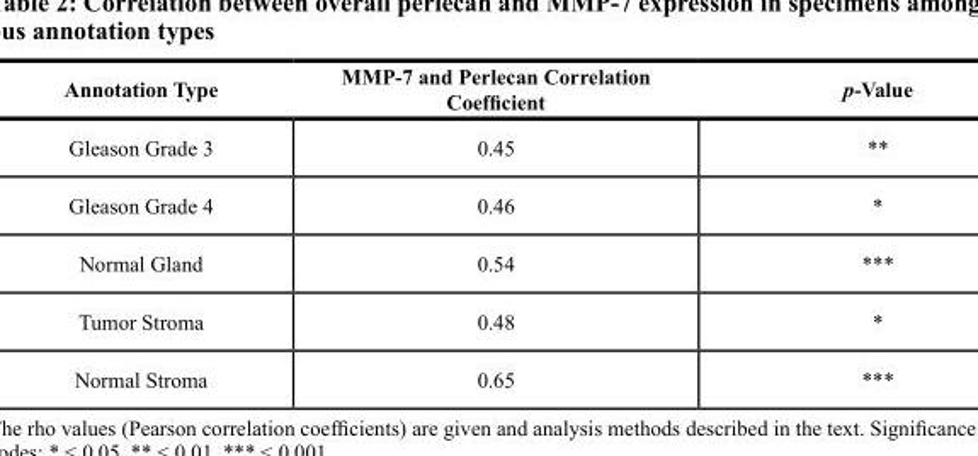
<table><thead><tr><td>Annotation Type</td><td>MMP-7 and Perlecan Correlation Coefficient</td><td>p-Value</td></tr></thead><tbody><tr><td>Gleason Grade 3</td><td>0.45</td><td>**</td></tr><tr><td>Gleason Grade 4</td><td>0.46</td><td>*</td></tr><tr><td>Normal Gland</td><td>0.54</td><td>***</td></tr><tr><td>Tumor Stroma</td><td>0.48</td><td>*</td></tr><tr><td>Normal Stroma</td><td>0.65</td><td>***</td></tr></tbody></table>